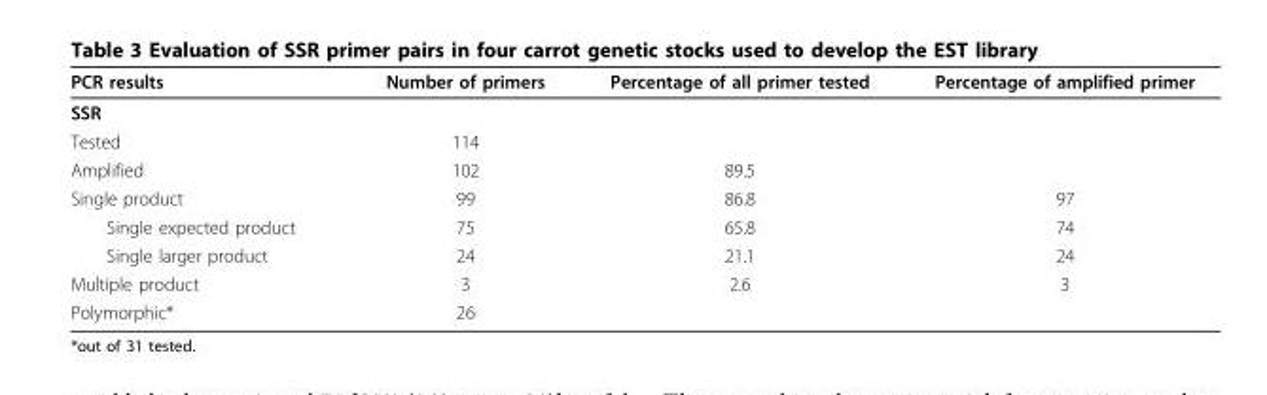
<table><thead><tr><td>PCR results</td><td>Number of primers</td><td>Percentage of all primer tested</td><td>Percentage of amplified primer</td></tr></thead><tbody><tr><td colspan="4">SSR</td></tr><tr><td>Tested</td><td>114</td><td></td><td></td></tr><tr><td>Amplified</td><td>102</td><td>89.5</td><td></td></tr><tr><td>Single product</td><td>99</td><td>86.8</td><td>97</td></tr><tr><td>Single expected product</td><td>75</td><td>65.8</td><td>74</td></tr><tr><td>Single larger product</td><td>24</td><td>21.1</td><td>24</td></tr><tr><td>Multiple product</td><td>3</td><td>2.6</td><td>3</td></tr><tr><td>Polymorphic*</td><td>26</td><td></td><td></td></tr></tbody></table>